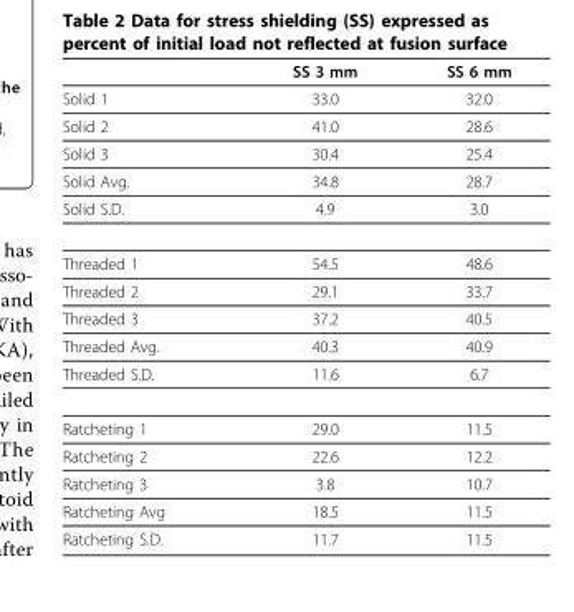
<table><thead><tr><td></td><td>SS 3 mm</td><td>SS 6 mm</td></tr></thead><tbody><tr><td>Solid 1</td><td>33.0</td><td>32.0</td></tr><tr><td>Solid 2</td><td>41.0</td><td>28.6</td></tr><tr><td>Solid 3</td><td>30.4</td><td>25.4</td></tr><tr><td>Solid Avg.</td><td>34.8</td><td>28.7</td></tr><tr><td>Solid S.D.</td><td>4.9</td><td>3.0</td></tr><tr><td>Threaded 1</td><td>54.5</td><td>48.6</td></tr><tr><td>Threaded 2</td><td>29.1</td><td>33.7</td></tr><tr><td>Threaded 3</td><td>37.2</td><td>40.5</td></tr><tr><td>Threaded Avg.</td><td>40.3</td><td>40.9</td></tr><tr><td>Threaded S.D.</td><td>11.6</td><td>6.7</td></tr><tr><td>Ratcheting 1</td><td>29.0</td><td>11.5</td></tr><tr><td>Ratcheting 2</td><td>22.6</td><td>12.2</td></tr><tr><td>Ratcheting 3</td><td>3.8</td><td>10.7</td></tr><tr><td>Ratcheting Avg</td><td>18.5</td><td>11.5</td></tr><tr><td>Ratcheting S.D.</td><td>11.7</td><td>11.5</td></tr></tbody></table>